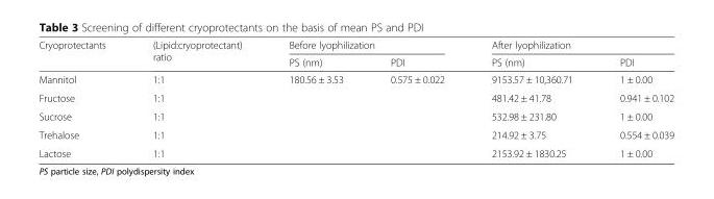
<table><thead><tr><td rowspan="2">Cryoprotectants</td><td rowspan="2">(Lipid:cryoprotectant) ratio</td><td colspan="2">Before lyophilization</td><td colspan="2">After lyophilization</td></tr><tr><td>PS (nm)</td><td>PDI</td><td>PS (nm)</td><td>PDI</td></tr></thead><tbody><tr><td>Mannitol</td><td>1:1</td><td rowspan="5">180.56 ± 3.53</td><td rowspan="5">0.575 ± 0.022</td><td>9153.57 ± 10,360.71</td><td>1 ± 0.00</td></tr><tr><td>Fructose</td><td>1:1</td><td>481.42 ± 41.78</td><td>0.941 ± 0.102</td></tr><tr><td>Sucrose</td><td>1:1</td><td>532.98 ± 231.80</td><td>1 ± 0.00</td></tr><tr><td>Trehalose</td><td>1:1</td><td>214.92 ± 3.75</td><td>0.554 ± 0.039</td></tr><tr><td>Lactose</td><td>1:1</td><td>2153.92 ± 1830.25</td><td>1 ± 0.00</td></tr></tbody></table>